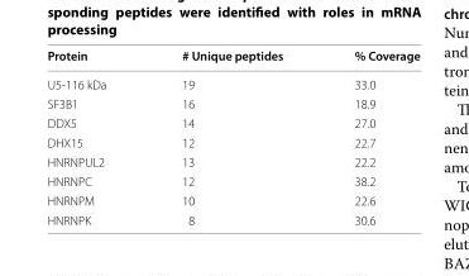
<table><thead><tr><td>Protein</td><td># Unique peptides</td><td>% Coverage</td></tr></thead><tbody><tr><td>U5-116 kDa</td><td>19</td><td>33.0</td></tr><tr><td>SF3B1</td><td>16</td><td>18.9</td></tr><tr><td>DDX5</td><td>14</td><td>27.0</td></tr><tr><td>DHX15</td><td>12</td><td>22.7</td></tr><tr><td>HNRNPUL2</td><td>13</td><td>22.2</td></tr><tr><td>HNRNPC</td><td>12</td><td>38.2</td></tr><tr><td>HNRNPM</td><td>10</td><td>22.6</td></tr><tr><td>HNRNPK</td><td>8</td><td>30.6</td></tr></tbody></table>